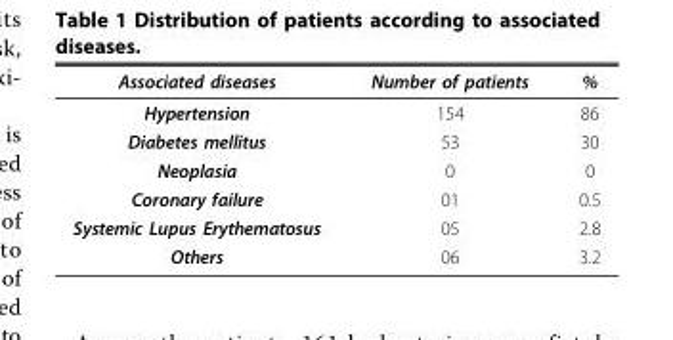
<table><tbody><tr><td>Associated diseases</td><td>Number of patients</td><td>%</td></tr><tr><td>Hypertension</td><td>154</td><td>86</td></tr><tr><td>Diabetes mellitus</td><td>53</td><td>30</td></tr><tr><td>Neoplasia</td><td>0</td><td>0</td></tr><tr><td>Coronary failure</td><td>01</td><td>0.5</td></tr><tr><td>Systemic Lupus Erythematosus</td><td>05</td><td>2.8</td></tr><tr><td>Others</td><td>06</td><td>3.2</td></tr></tbody></table>